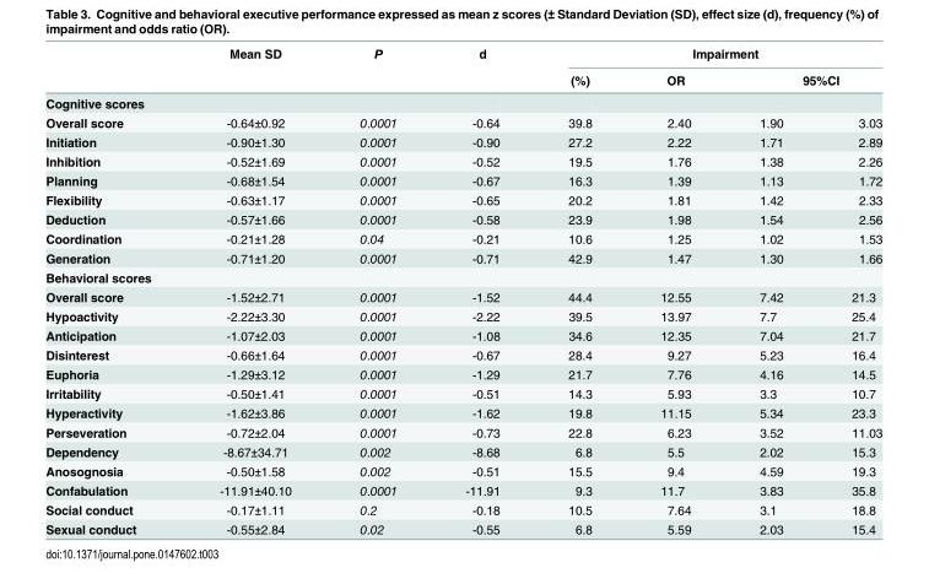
<table><thead><tr><td rowspan="4">Cognitive scores Overall score</td><td rowspan="4">Mean SD -0.64±0.92</td><td rowspan="4">P 0.0001</td><td rowspan="4">d -0.64</td><td colspan="4">Impairment</td></tr><tr><td rowspan="3">(%) 39.8</td><td rowspan="3">OR 2.40</td><td rowspan="2" colspan="2">95%CI</td></tr><tr></tr><tr><td>1.90</td><td>3.03</td></tr></thead><tbody><tr><td>Initiation</td><td>-0.90±1.30</td><td>0.0001</td><td>-0.90</td><td>27.2</td><td>2.22</td><td>1.71</td><td>2.89</td></tr><tr><td>Inhibition</td><td>-0.52±1.69</td><td>0.0001</td><td>-0.52</td><td>19.5</td><td>1.76</td><td>1.38</td><td>2.26</td></tr><tr><td>Planning</td><td>-0.68±1.54</td><td>0.0001</td><td>-0.67</td><td>16.3</td><td>1.39</td><td>1.13</td><td>1.72</td></tr><tr><td>Flexibility</td><td>-0.63±1.17</td><td>0.0001</td><td>-0.65</td><td>20.2</td><td>1.81</td><td>1.42</td><td>2.33</td></tr><tr><td>Deduction</td><td>-0.57±1.66</td><td>0.0001</td><td>-0.58</td><td>23.9</td><td>1.98</td><td>1.54</td><td>2.56</td></tr><tr><td>Coordination</td><td>-0.21±1.28</td><td>0.04</td><td>-0.21</td><td>10.6</td><td>1.25</td><td>1.02</td><td>1.53</td></tr><tr><td>Generation</td><td>-0.71±1.20</td><td>0.0001</td><td>-0.71</td><td>42.9</td><td>1.47</td><td>1.30</td><td>1.66</td></tr><tr><td colspan="8">Behavioral scores</td></tr><tr><td>Overall score</td><td>-1.52±2.71</td><td>0.0001</td><td>-1.52</td><td>44.4</td><td>12.55</td><td>7.42</td><td>21.3</td></tr><tr><td>Hypoactivity</td><td>-2.22±3.30</td><td>0.0001</td><td>-2.22</td><td>39.5</td><td>13.97</td><td>7.7</td><td>25.4</td></tr><tr><td>Anticipation</td><td>-1.07±2.03</td><td>0.0001</td><td>-1.08</td><td>34.6</td><td>12.35</td><td>7.04</td><td>21.7</td></tr><tr><td>Disinterest</td><td>-0.66±1.64</td><td>0.0001</td><td>-0.67</td><td>28.4</td><td>9.27</td><td>5.23</td><td>16.4</td></tr><tr><td>Euphoria</td><td>-1.29±3.12</td><td>0.0001</td><td>-1.29</td><td>21.7</td><td>7.76</td><td>4.16</td><td>14.5</td></tr><tr><td>Irritability</td><td>-0.50±1.41</td><td>0.0001</td><td>-0.51</td><td>14.3</td><td>5.93</td><td>3.3</td><td>10.7</td></tr><tr><td>Hyperactivity</td><td>-1.62±3.86</td><td>0.0001</td><td>-1.62</td><td>19.8</td><td>11.15</td><td>5.34</td><td>23.3</td></tr><tr><td>Perseveration</td><td>-0.72±2.04</td><td>0.0001</td><td>-0.73</td><td>22.8</td><td>6.23</td><td>3.52</td><td>11.03</td></tr><tr><td>Dependency</td><td>-8.67±34.71</td><td>0.002</td><td>-8.68</td><td>6.8</td><td>5.5</td><td>2.02</td><td>15.3</td></tr><tr><td>Anosognosia</td><td>-0.50±1.58</td><td>0.002</td><td>-0.51</td><td>15.5</td><td>9.4</td><td>4.59</td><td>19.3</td></tr><tr><td>Confabulation</td><td>-11.91±40.10</td><td>0.0001</td><td>-11.91</td><td>9.3</td><td>11.7</td><td>3.83</td><td>35.8</td></tr><tr><td>Social conduct</td><td>-0.17±1.11</td><td>0.2</td><td>-0.18</td><td>10.5</td><td>7.64</td><td>3.1</td><td>18.8</td></tr><tr><td>Sexual conduct</td><td>-0.55±2.84</td><td>0.02</td><td>-0.55</td><td>6.8</td><td>5.59</td><td>2.03</td><td>15.4</td></tr></tbody></table>